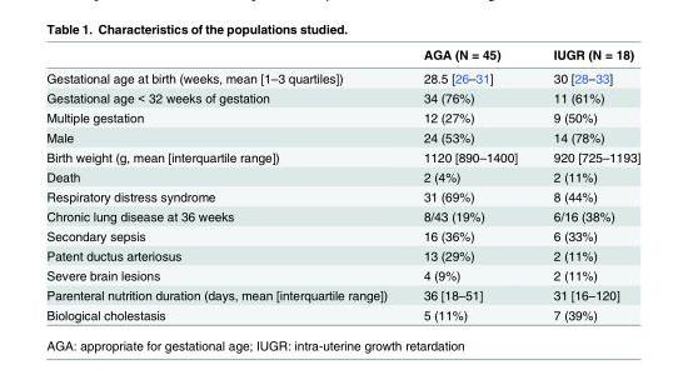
<table><thead><tr><td></td><td>AGA (N = 45)</td><td>IUGR (N = 18)</td></tr></thead><tbody><tr><td>Gestational age at birth (weeks, mean [1–3 quartiles])</td><td>28.5 [26–31]</td><td>30 [28–33]</td></tr><tr><td>Gestational age &lt; 32 weeks of gestation</td><td>34 (76%)</td><td>11 (61%)</td></tr><tr><td>Multiple gestation</td><td>12 (27%)</td><td>9 (50%)</td></tr><tr><td>Male</td><td>24 (53%)</td><td>14 (78%)</td></tr><tr><td>Birth weight (g, mean [interquartile range])</td><td>1120 [890–1400]</td><td>920 [725–1193]</td></tr><tr><td>Death</td><td>2 (4%)</td><td>2 (11%)</td></tr><tr><td>Respiratory distress syndrome</td><td>31 (69%)</td><td>8 (44%)</td></tr><tr><td>Chronic lung disease at 36 weeks</td><td>8/43 (19%)</td><td>6/16 (38%)</td></tr><tr><td>Secondary sepsis</td><td>16 (36%)</td><td>6 (33%)</td></tr><tr><td>Patent ductus arteriosus</td><td>13 (29%)</td><td>2 (11%)</td></tr><tr><td>Severe brain lesions</td><td>4 (9%)</td><td>2 (11%)</td></tr><tr><td>Parenteral nutrition duration (days, mean [interquartile range])</td><td>36 [18–51]</td><td>31 [16–120]</td></tr><tr><td>Biological cholestasis</td><td>5 (11%)</td><td>7 (39%)</td></tr></tbody></table>